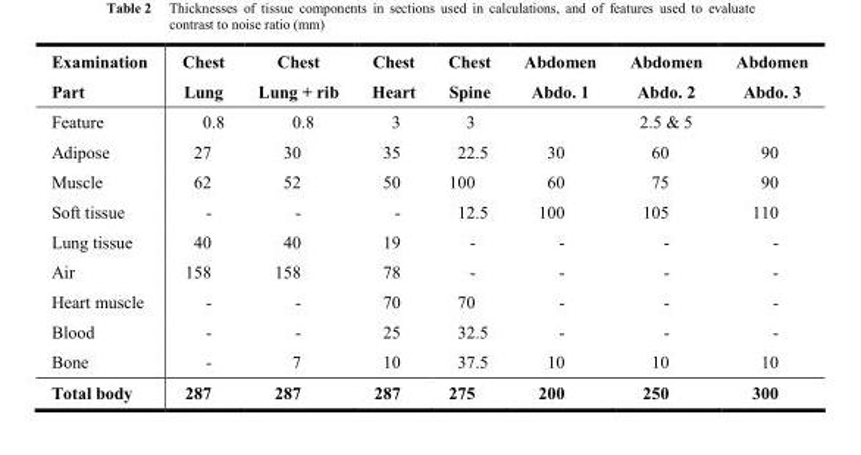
<table><thead><tr><td rowspan="2">Examination Part</td><td rowspan="2">Chest Lung</td><td rowspan="2">Chest Lung + rib</td><td rowspan="2">Chest Heart</td><td rowspan="2">Chest Spine</td><td rowspan="2">Abdomen Abdo. 1</td><td rowspan="2">Abdomen Abdo. 2</td><td rowspan="2">Abdomen Abdo. 3</td></tr><tr></tr></thead><tbody><tr><td>Feature</td><td>0.8</td><td>0.8</td><td>3</td><td>3</td><td></td><td>2.5 &amp; 5</td><td></td></tr><tr><td>Adipose</td><td>27</td><td>30</td><td>35</td><td>22.5</td><td>30</td><td>60</td><td>90</td></tr><tr><td>Muscle</td><td>62</td><td>52</td><td>50</td><td>100</td><td>60</td><td>75</td><td>90</td></tr><tr><td>Soft tissue</td><td>-</td><td>-</td><td>-</td><td>12.5</td><td>100</td><td>105</td><td>110</td></tr><tr><td>Lung tissue</td><td>40</td><td>40</td><td>19</td><td>-</td><td>-</td><td>-</td><td>-</td></tr><tr><td>Air</td><td>158</td><td>158</td><td>78</td><td>-</td><td>-</td><td>-</td><td>-</td></tr><tr><td>Heart muscle</td><td>-</td><td>-</td><td>70</td><td>70</td><td>-</td><td>-</td><td>-</td></tr><tr><td>Blood</td><td>-</td><td>-</td><td>25</td><td>32.5</td><td>-</td><td>-</td><td>-</td></tr><tr><td>Bone</td><td>-</td><td>7</td><td>10</td><td>37.5</td><td>10</td><td>10</td><td>10</td></tr><tr><td>Total body</td><td>287</td><td>287</td><td>287</td><td>275</td><td>200</td><td>250</td><td>300</td></tr></tbody></table>